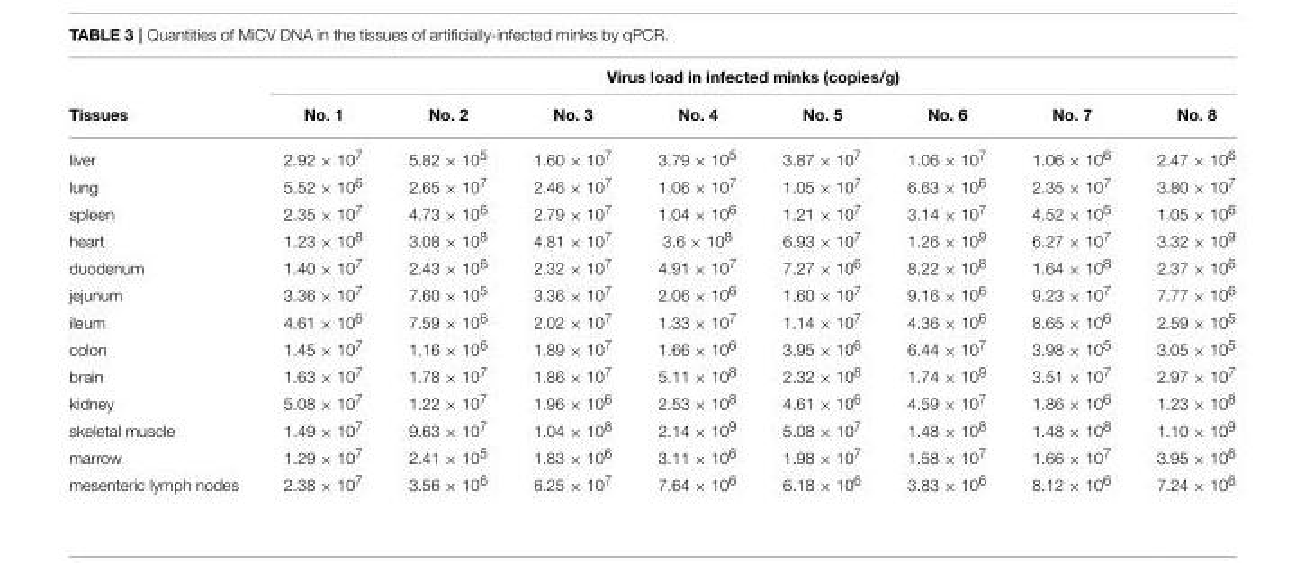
<table><thead><tr><td rowspan="2">Tissues</td><td colspan="8">Virus load in infected minks (copies/g)</td></tr><tr><td>No. 1</td><td>No. 2</td><td>No. 3</td><td>No. 4</td><td>No. 5</td><td>No. 6</td><td>No. 7</td><td>No. 8</td></tr></thead><tbody><tr><td>liver</td><td>2.92 × 10<sup>7</sup></td><td>5.82 × 10<sup>5</sup></td><td>1.60 × 10<sup>7</sup></td><td>3.79 × 10<sup>5</sup></td><td>3.87 × 10<sup>7</sup></td><td>1.06 × 10<sup>7</sup></td><td>1.06 × 10<sup>6</sup></td><td>2.47 × 10<sup>6</sup></td></tr><tr><td>lung</td><td>5.52 × 10<sup>6</sup></td><td>2.65 × 10<sup>7</sup></td><td>2.46 × 10<sup>7</sup></td><td>1.06 × 10<sup>7</sup></td><td>1.05 × 10<sup>7</sup></td><td>6.63 × 10<sup>6</sup></td><td>2.35 × 10<sup>7</sup></td><td>3.80 × 10<sup>7</sup></td></tr><tr><td>spleen</td><td>2.35 × 10<sup>7</sup></td><td>4.73 × 10<sup>6</sup></td><td>2.79 × 10<sup>7</sup></td><td>1.04 × 10<sup>6</sup></td><td>1.21 × 10<sup>7</sup></td><td>3.14 × 10<sup>7</sup></td><td>4.52 × 10<sup>5</sup></td><td>1.05 × 10<sup>6</sup></td></tr><tr><td>heart</td><td>1.23 × 10<sup>8</sup></td><td>3.08 × 10<sup>8</sup></td><td>4.81 × 10<sup>7</sup></td><td>3.6 × 10<sup>8</sup></td><td>6.93 × 10<sup>7</sup></td><td>1.26 × 10<sup>9</sup></td><td>6.27 × 10<sup>7</sup></td><td>3.32 × 10<sup>9</sup></td></tr><tr><td>duodenum</td><td>1.40 × 10<sup>7</sup></td><td>2.43 × 10<sup>6</sup></td><td>2.32 × 10<sup>7</sup></td><td>4.91 × 10<sup>7</sup></td><td>7.27 × 10<sup>6</sup></td><td>8.22 × 10<sup>8</sup></td><td>1.64 × 10<sup>8</sup></td><td>2.37 × 10<sup>6</sup></td></tr><tr><td>jejunum</td><td>3.36 × 10<sup>7</sup></td><td>7.60 × 10<sup>5</sup></td><td>3.36 × 10<sup>7</sup></td><td>2.06 × 10<sup>6</sup></td><td>1.60 × 10<sup>7</sup></td><td>9.16 × 10<sup>6</sup></td><td>9.23 × 10<sup>7</sup></td><td>7.77 × 10<sup>6</sup></td></tr><tr><td>ileum</td><td>4.61 × 10<sup>6</sup></td><td>7.59 × 10<sup>6</sup></td><td>2.02 × 10<sup>7</sup></td><td>1.33 × 10<sup>7</sup></td><td>1.14 × 10<sup>7</sup></td><td>4.36 × 10<sup>6</sup></td><td>8.65 × 10<sup>6</sup></td><td>2.59 × 10<sup>5</sup></td></tr><tr><td>colon</td><td>1.45 × 10<sup>7</sup></td><td>1.16 × 10<sup>6</sup></td><td>1.89 × 10<sup>7</sup></td><td>1.66 × 10<sup>6</sup></td><td>3.95 × 10<sup>6</sup></td><td>6.44 × 10<sup>7</sup></td><td>3.98 × 10<sup>5</sup></td><td>3.05 × 10<sup>5</sup></td></tr><tr><td>brain</td><td>1.63 × 10<sup>7</sup></td><td>1.78 × 10<sup>7</sup></td><td>1.86 × 10<sup>7</sup></td><td>5.11 × 10<sup>8</sup></td><td>2.32 × 10<sup>8</sup></td><td>1.74 × 10<sup>9</sup></td><td>3.51 × 10<sup>7</sup></td><td>2.97 × 10<sup>7</sup></td></tr><tr><td>kidney</td><td>5.08 × 10<sup>7</sup></td><td>1.22 × 10<sup>7</sup></td><td>1.96 × 10<sup>6</sup></td><td>2.53 × 10<sup>8</sup></td><td>4.61 × 10<sup>6</sup></td><td>4.59 × 10<sup>7</sup></td><td>1.86 × 10<sup>6</sup></td><td>1.23 × 10<sup>8</sup></td></tr><tr><td>skeletal muscle</td><td>1.49 × 10<sup>7</sup></td><td>9.63 × 10<sup>7</sup></td><td>1.04 × 10<sup>8</sup></td><td>2.14 × 10<sup>9</sup></td><td>5.08 × 10<sup>7</sup></td><td>1.48 × 10<sup>8</sup></td><td>1.48 × 10<sup>8</sup></td><td>1.10 × 10<sup>9</sup></td></tr><tr><td>marrow</td><td>1.29 × 10<sup>7</sup></td><td>2.41 × 10<sup>5</sup></td><td>1.83 × 10<sup>6</sup></td><td>3.11 × 10<sup>6</sup></td><td>1.98 × 10<sup>7</sup></td><td>1.58 × 10<sup>7</sup></td><td>1.66 × 10<sup>7</sup></td><td>3.95 × 10<sup>6</sup></td></tr><tr><td>mesenteric lymph nodes</td><td>2.38 × 10<sup>7</sup></td><td>3.56 × 10<sup>6</sup></td><td>6.25 × 10<sup>7</sup></td><td>7.64 × 10<sup>6</sup></td><td>6.18 × 10<sup>6</sup></td><td>3.83 × 10<sup>6</sup></td><td>8.12 × 10<sup>6</sup></td><td>7.24 × 10<sup>6</sup></td></tr></tbody></table>